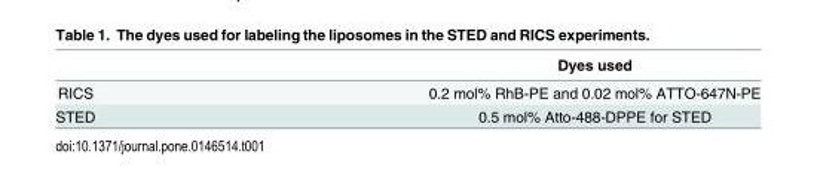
<table><thead><tr><td></td><td>Dyes used</td></tr></thead><tbody><tr><td>RICS</td><td>0.2 mol% RhB-PE and 0.02 mol% ATTO-647N-PE</td></tr><tr><td>STED</td><td>0.5 mol% Atto-488-DPPE for STED</td></tr></tbody></table>